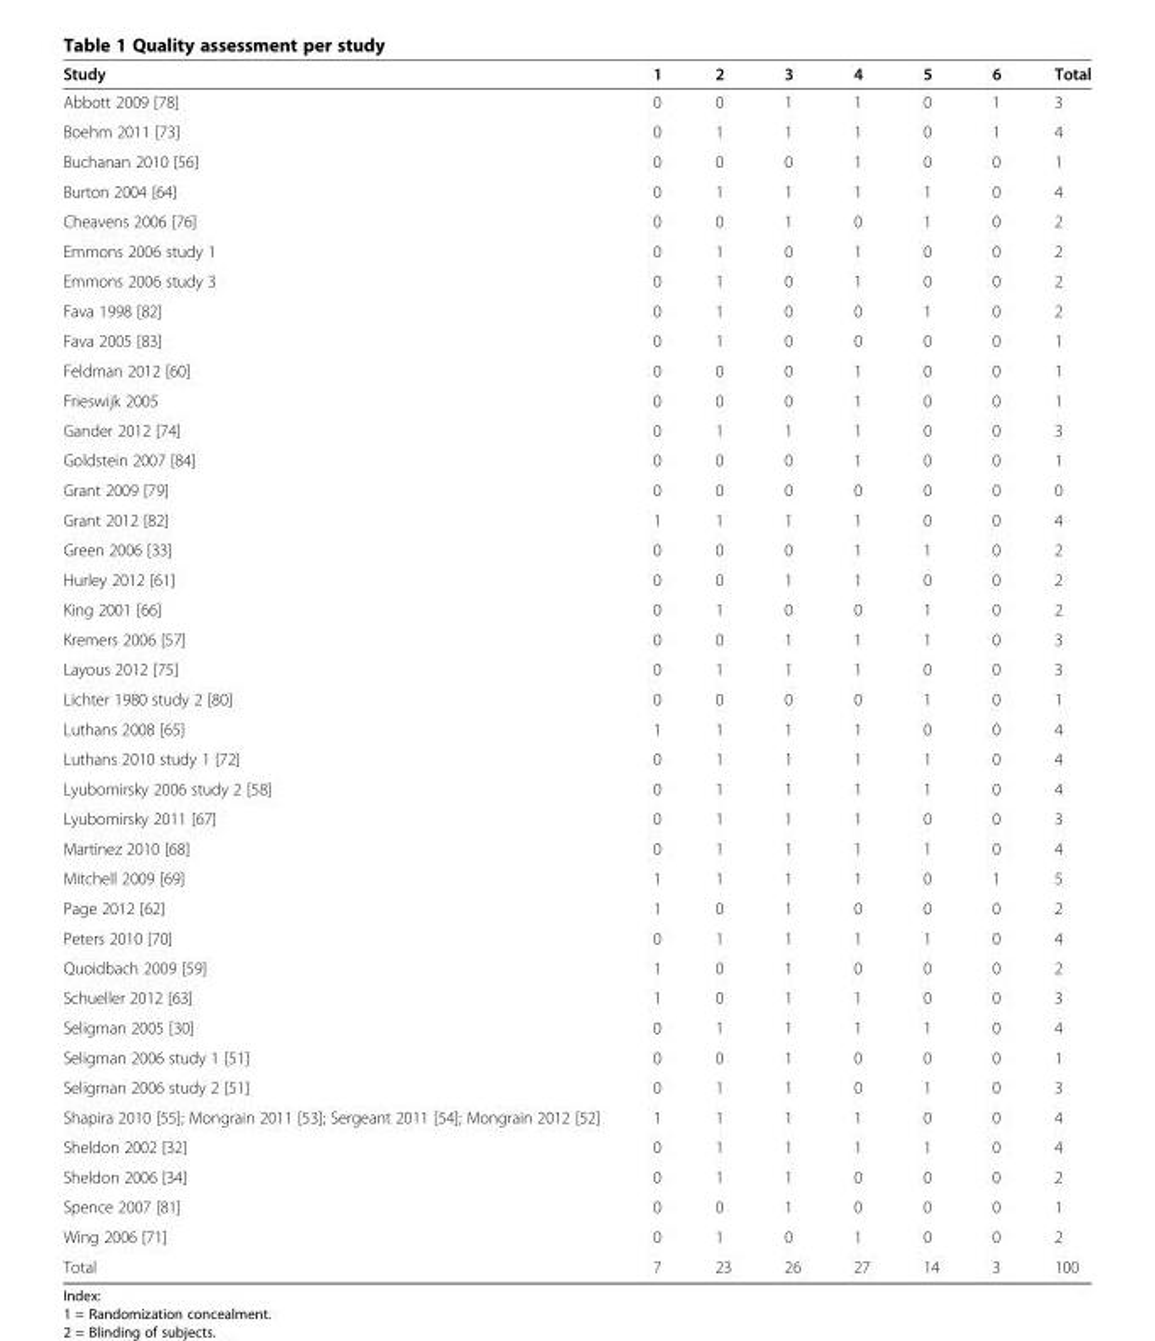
<table><thead><tr><td>Study</td><td>1</td><td>2</td><td>3</td><td>4</td><td>5</td><td>6</td><td>Total</td></tr></thead><tbody><tr><td>Abbott 2009 [78]</td><td>0</td><td>0</td><td>1</td><td>1</td><td>0</td><td>1</td><td>3</td></tr><tr><td>Boehm 2011 [73]</td><td>0</td><td>1</td><td>1</td><td>1</td><td>0</td><td>1</td><td>4</td></tr><tr><td>Buchanan 2010 [56]</td><td>0</td><td>0</td><td>0</td><td>1</td><td>0</td><td>0</td><td>1</td></tr><tr><td>Burton 2004 [64]</td><td>0</td><td>1</td><td>1</td><td>1</td><td>1</td><td>0</td><td>4</td></tr><tr><td>Cheavens 2006 [76]</td><td>0</td><td>0</td><td>1</td><td>0</td><td>1</td><td>0</td><td>2</td></tr><tr><td>Emmons 2006 study 1</td><td>0</td><td>1</td><td>0</td><td>1</td><td>0</td><td>0</td><td>2</td></tr><tr><td>Emmons 2006 study 3</td><td>0</td><td>1</td><td>0</td><td>1</td><td>0</td><td>0</td><td>2</td></tr><tr><td>Fava 1998 [82]</td><td>0</td><td>1</td><td>0</td><td>0</td><td>1</td><td>0</td><td>2</td></tr><tr><td>Fava 2005 [83]</td><td>0</td><td>1</td><td>0</td><td>0</td><td>0</td><td>0</td><td>1</td></tr><tr><td>Feldman 2012 [60]</td><td>0</td><td>0</td><td>0</td><td>1</td><td>0</td><td>0</td><td>1</td></tr><tr><td>Frieswijk 2005</td><td>0</td><td>0</td><td>0</td><td>1</td><td>0</td><td>0</td><td>1</td></tr><tr><td>Gander 2012 [74]</td><td>0</td><td>1</td><td>1</td><td>1</td><td>0</td><td>0</td><td>3</td></tr><tr><td>Goldstein 2007 [84]</td><td>0</td><td>0</td><td>0</td><td>1</td><td>0</td><td>0</td><td>1</td></tr><tr><td>Grant 2009 [79]</td><td>0</td><td>0</td><td>0</td><td>0</td><td>0</td><td>0</td><td>0</td></tr><tr><td>Grant 2012 [82]</td><td>1</td><td>1</td><td>1</td><td>1</td><td>0</td><td>0</td><td>4</td></tr><tr><td>Green 2006 [33]</td><td>0</td><td>0</td><td>0</td><td>1</td><td>1</td><td>0</td><td>2</td></tr><tr><td>Hurley 2012 [61]</td><td>0</td><td>0</td><td>1</td><td>1</td><td>0</td><td>0</td><td>2</td></tr><tr><td>King 2001 [66]</td><td>0</td><td>1</td><td>0</td><td>0</td><td>1</td><td>0</td><td>2</td></tr><tr><td>Kremers 2006 [57]</td><td>0</td><td>0</td><td>1</td><td>1</td><td>1</td><td>0</td><td>3</td></tr><tr><td>Layous 2012 [75]</td><td>0</td><td>1</td><td>1</td><td>1</td><td>0</td><td>0</td><td>3</td></tr><tr><td>Lichter 1980 study 2 [80]</td><td>0</td><td>0</td><td>0</td><td>0</td><td>1</td><td>0</td><td>1</td></tr><tr><td>Luthans 2008 [65]</td><td>1</td><td>1</td><td>1</td><td>1</td><td>0</td><td>0</td><td>4</td></tr><tr><td>Luthans 2010 study 1 [72]</td><td>0</td><td>1</td><td>1</td><td>1</td><td>1</td><td>0</td><td>4</td></tr><tr><td>Lyubomirsky 2006 study 2 [58]</td><td>0</td><td>1</td><td>1</td><td>1</td><td>1</td><td>0</td><td>4</td></tr><tr><td>Lyubomirsky 2011 [67]</td><td>0</td><td>1</td><td>1</td><td>1</td><td>0</td><td>0</td><td>3</td></tr><tr><td>Martinez 2010 [68]</td><td>0</td><td>1</td><td>1</td><td>1</td><td>1</td><td>0</td><td>4</td></tr><tr><td>Mitchell 2009 [69]</td><td>1</td><td>1</td><td>1</td><td>1</td><td>0</td><td>1</td><td>5</td></tr><tr><td>Page 2012 [62]</td><td>1</td><td>0</td><td>1</td><td>0</td><td>0</td><td>0</td><td>2</td></tr><tr><td>Peters 2010 [70]</td><td>0</td><td>1</td><td>1</td><td>1</td><td>1</td><td>0</td><td>4</td></tr><tr><td>Quoidbach 2009 [59]</td><td>1</td><td>0</td><td>1</td><td>0</td><td>0</td><td>0</td><td>2</td></tr><tr><td>Schueller 2012 [63]</td><td>1</td><td>0</td><td>1</td><td>1</td><td>0</td><td>0</td><td>3</td></tr><tr><td>Seligman 2005 [30]</td><td>0</td><td>1</td><td>1</td><td>1</td><td>1</td><td>0</td><td>4</td></tr><tr><td>Seligman 2006 study 1 [51]</td><td>0</td><td>0</td><td>1</td><td>0</td><td>0</td><td>0</td><td>1</td></tr><tr><td>Seligman 2006 study 2 [51]</td><td>0</td><td>1</td><td>1</td><td>0</td><td>1</td><td>0</td><td>3</td></tr><tr><td>Shapira 2010 [55]; Mongrain 2011 [53]; Sergeant 2011 [54]; Mongrain 2012 [52]</td><td>1</td><td>1</td><td>1</td><td>1</td><td>0</td><td>0</td><td>4</td></tr><tr><td>Sheldon 2002 [32]</td><td>0</td><td>1</td><td>1</td><td>1</td><td>1</td><td>0</td><td>4</td></tr><tr><td>Sheldon 2006 [34]</td><td>0</td><td>1</td><td>1</td><td>0</td><td>0</td><td>0</td><td>2</td></tr><tr><td>Spence 2007 [81]</td><td>0</td><td>0</td><td>1</td><td>0</td><td>0</td><td>0</td><td>1</td></tr><tr><td>Wing 2006 [71]</td><td>0</td><td>1</td><td>0</td><td>1</td><td>0</td><td>0</td><td>2</td></tr><tr><td>Total</td><td>7</td><td>23</td><td>26</td><td>27</td><td>14</td><td>3</td><td>100</td></tr></tbody></table>